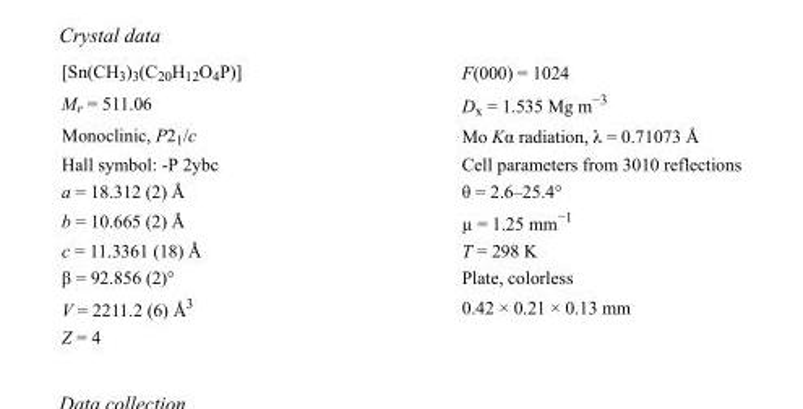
<table><tbody><tr><td>[Sn(CH<sub>3</sub>)<sub>3</sub>(C<sub>20</sub>H<sub>12</sub>O<sub>4</sub>P)]</td><td>F(000) = 1024</td></tr><tr><td>M<sub>r</sub> = 511.06</td><td>D<sub>x</sub> = 1.535 Mg m<sup>−3</sup></td></tr><tr><td>Monoclinic, P2<sub>1</sub>/c</td><td>Mo Kα radiation, λ = 0.71073 Å</td></tr><tr><td>Hall symbol: -P 2ybc</td><td>Cell parameters from 3010 reflections</td></tr><tr><td>a = 18.312 (2) Å</td><td>θ = 2.6–25.4°</td></tr><tr><td>b = 10.665 (2) Å</td><td>µ = 1.25 mm<sup>−1</sup></td></tr><tr><td>c = 11.3361 (18) Å</td><td>T = 298 K</td></tr><tr><td>β = 92.856 (2)°</td><td>Plate, colorless</td></tr><tr><td>V = 2211.2 (6) Å<sup>3</sup></td><td>0.42 × 0.21 × 0.13 mm</td></tr><tr><td>Z = 4</td><td></td></tr></tbody></table>